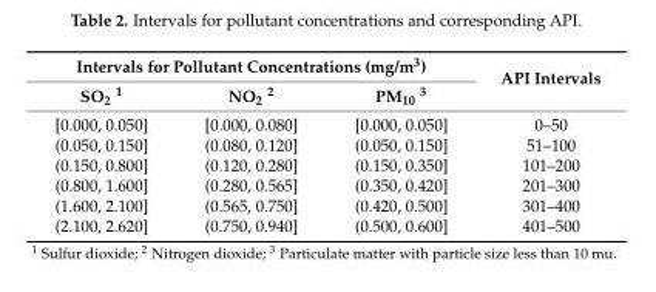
<table><thead><tr><td colspan="3">Intervals for Pollutant Concentrations (mg/m<sup>3</sup>)</td><td rowspan="2">API Intervals</td></tr><tr><td>SO<sub>2</sub> <sup>1</sup></td><td>NO<sub>2</sub> <sup>2</sup></td><td>PM<sub>10</sub> <sup>3</sup></td></tr></thead><tbody><tr><td>[0.000, 0.050]</td><td>[0.000, 0.080]</td><td>[0.000, 0.050]</td><td>0–50</td></tr><tr><td>(0.050, 0.150]</td><td>(0.080, 0.120]</td><td>(0.050, 0.150]</td><td>51–100</td></tr><tr><td>(0.150, 0.800]</td><td>(0.120, 0.280]</td><td>(0.150, 0.350]</td><td>101–200</td></tr><tr><td>(0.800, 1.600]</td><td>(0.280, 0.565]</td><td>(0.350, 0.420]</td><td>201–300</td></tr><tr><td>(1.600, 2.100]</td><td>(0.565, 0.750]</td><td>(0.420, 0.500]</td><td>301–400</td></tr><tr><td>(2.100, 2.620]</td><td>(0.750, 0.940]</td><td>(0.500, 0.600]</td><td>401–500</td></tr></tbody></table>